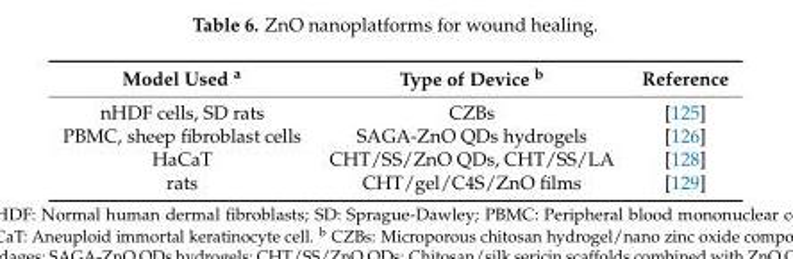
<table><thead><tr><td>Model Used <sup>a</sup></td><td>Type of Device <sup>b</sup></td><td>Reference</td></tr></thead><tbody><tr><td>nHDF cells, SD rats</td><td>CZBs</td><td>[125]</td></tr><tr><td>PBMC, sheep fibroblast cells</td><td>SAGA-ZnO QDs hydrogels</td><td>[126]</td></tr><tr><td>HaCaT</td><td>CHT/SS/ZnO QDs, CHT/SS/LA</td><td>[128]</td></tr><tr><td>rats</td><td>CHT/gel/C4S/ZnO films</td><td>[129]</td></tr></tbody></table>